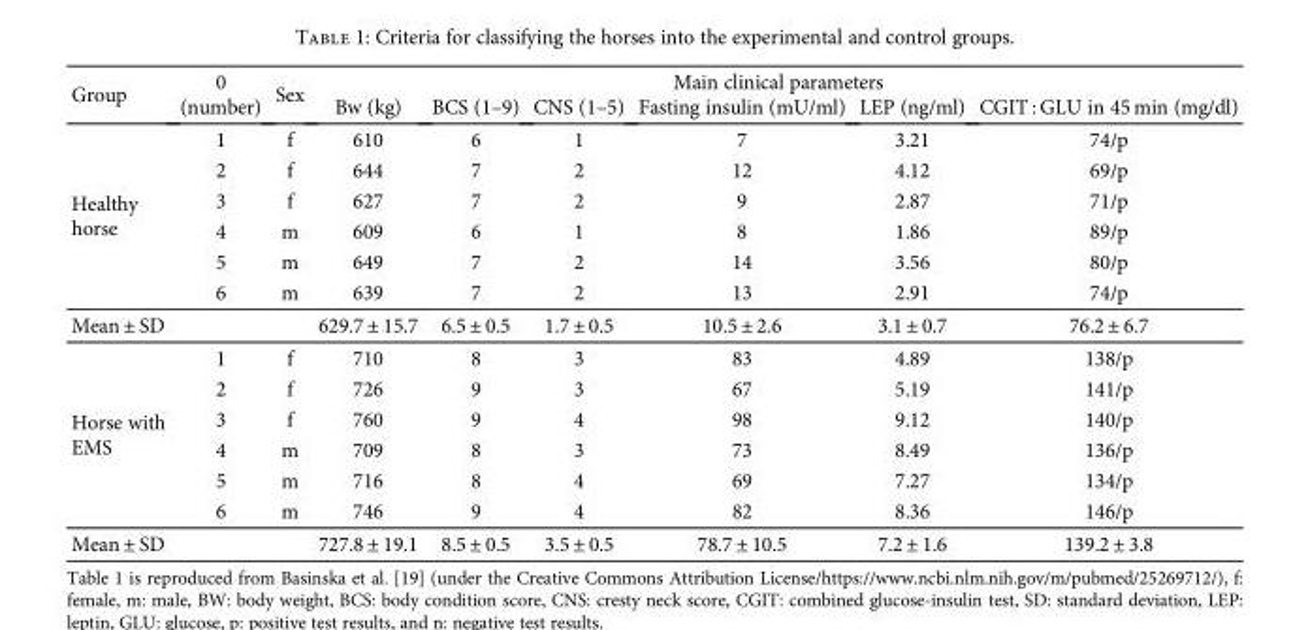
<table><thead><tr><td rowspan="2">Group</td><td rowspan="2">0 (number)</td><td rowspan="2">Sex</td><td colspan="6">Main clinical parameters</td></tr><tr><td>Bw (kg)</td><td>BCS (1–9)</td><td>CNS (1–5)</td><td>Fasting insulin (mU/ml)</td><td>LEP (ng/ml)</td><td>CGIT : GLU in 45 min (mg/dl)</td></tr></thead><tbody><tr><td rowspan="6">Healthy horse</td><td>1</td><td>f</td><td>610</td><td>6</td><td>1</td><td>7</td><td>3.21</td><td>74/p</td></tr><tr><td>2</td><td>f</td><td>644</td><td>7</td><td>2</td><td>12</td><td>4.12</td><td>69/p</td></tr><tr><td>3</td><td>f</td><td>627</td><td>7</td><td>2</td><td>9</td><td>2.87</td><td>71/p</td></tr><tr><td>4</td><td>m</td><td>609</td><td>6</td><td>1</td><td>8</td><td>1.86</td><td>89/p</td></tr><tr><td>5</td><td>m</td><td>649</td><td>7</td><td>2</td><td>14</td><td>3.56</td><td>80/p</td></tr><tr><td>6</td><td>m</td><td>639</td><td>7</td><td>2</td><td>13</td><td>2.91</td><td>74/p</td></tr><tr><td>Mean ± SD</td><td></td><td></td><td>629.7 ± 15.7</td><td>6.5 ± 0.5</td><td>1.7 ± 0.5</td><td>10.5 ± 2.6</td><td>3.1 ± 0.7</td><td>76.2 ± 6.7</td></tr><tr><td rowspan="6">Horse with EMS</td><td>1</td><td>f</td><td>710</td><td>8</td><td>3</td><td>83</td><td>4.89</td><td>138/p</td></tr><tr><td>2</td><td>f</td><td>726</td><td>9</td><td>3</td><td>67</td><td>5.19</td><td>141/p</td></tr><tr><td>3</td><td>f</td><td>760</td><td>9</td><td>4</td><td>98</td><td>9.12</td><td>140/p</td></tr><tr><td>4</td><td>m</td><td>709</td><td>8</td><td>3</td><td>73</td><td>8.49</td><td>136/p</td></tr><tr><td>5</td><td>m</td><td>716</td><td>8</td><td>4</td><td>69</td><td>7.27</td><td>134/p</td></tr><tr><td>6</td><td>m</td><td>746</td><td>9</td><td>4</td><td>82</td><td>8.36</td><td>146/p</td></tr><tr><td>Mean ± SD</td><td></td><td></td><td>727.8 ± 19.1</td><td>8.5 ± 0.5</td><td>3.5 ± 0.5</td><td>78.7 ± 10.5</td><td>7.2 ± 1.6</td><td>139.2 ± 3.8</td></tr></tbody></table>